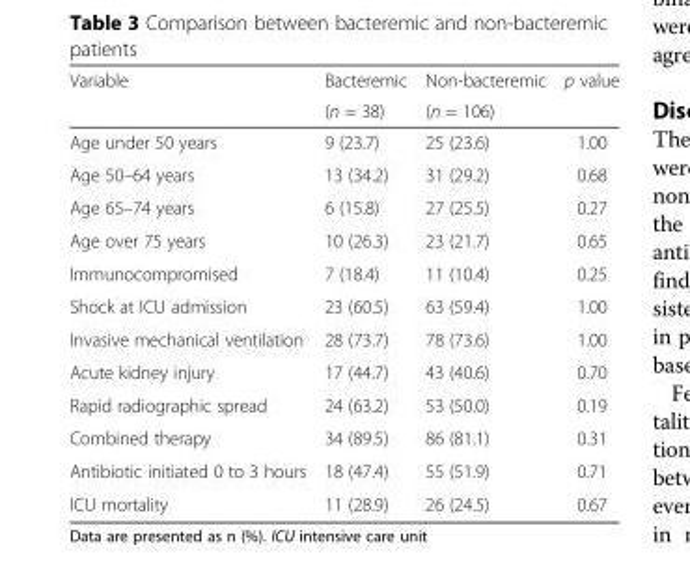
<table><thead><tr><td rowspan="2">Variable</td><td rowspan="2">Bacteremic (n = 38)</td><td rowspan="2">Non-bacteremic (n = 106)</td><td rowspan="2">p value</td></tr><tr></tr></thead><tbody><tr><td>Age under 50 years</td><td>9 (23.7)</td><td>25 (23.6)</td><td>1.00</td></tr><tr><td>Age 50–64 years</td><td>13 (34.2)</td><td>31 (29.2)</td><td>0.68</td></tr><tr><td>Age 65–74 years</td><td>6 (15.8)</td><td>27 (25.5)</td><td>0.27</td></tr><tr><td>Age over 75 years</td><td>10 (26.3)</td><td>23 (21.7)</td><td>0.65</td></tr><tr><td>Immunocompromised</td><td>7 (18.4)</td><td>11 (10.4)</td><td>0.25</td></tr><tr><td>Shock at ICU admission</td><td>23 (60.5)</td><td>63 (59.4)</td><td>1.00</td></tr><tr><td>Invasive mechanical ventilation</td><td>28 (73.7)</td><td>78 (73.6)</td><td>1.00</td></tr><tr><td>Acute kidney injury</td><td>17 (44.7)</td><td>43 (40.6)</td><td>0.70</td></tr><tr><td>Rapid radiographic spread</td><td>24 (63.2)</td><td>53 (50.0)</td><td>0.19</td></tr><tr><td>Combined therapy</td><td>34 (89.5)</td><td>86 (81.1)</td><td>0.31</td></tr><tr><td>Antibiotic initiated 0 to 3 hours</td><td>18 (47.4)</td><td>55 (51.9)</td><td>0.71</td></tr><tr><td>ICU mortality</td><td>11 (28.9)</td><td>26 (24.5)</td><td>0.67</td></tr></tbody></table>